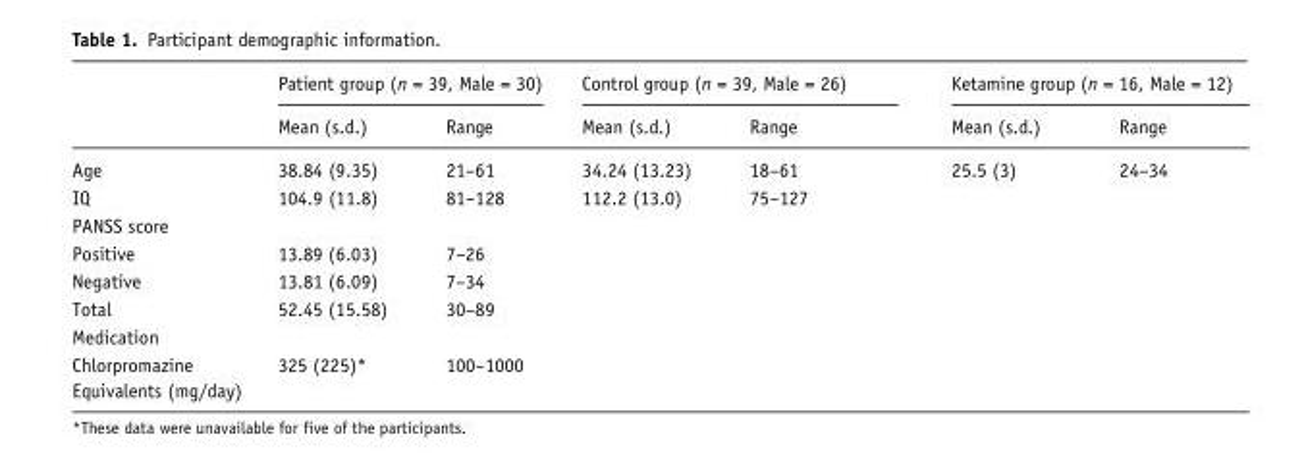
<table><thead><tr><td rowspan="2"></td><td colspan="2">Patient group (n = 39, Male = 30)</td><td colspan="2">Control group (n = 39, Male = 26)</td><td colspan="2">Ketamine group (n = 16, Male = 12)</td></tr><tr><td>Mean (s.d.)</td><td>Range</td><td>Mean (s.d.)</td><td>Range</td><td>Mean (s.d.)</td><td>Range</td></tr></thead><tbody><tr><td>Age</td><td>38.84 (9.35)</td><td>21–61</td><td>34.24 (13.23)</td><td>18–61</td><td>25.5 (3)</td><td>24–34</td></tr><tr><td>IQ</td><td>104.9 (11.8)</td><td>81–128</td><td>112.2 (13.0)</td><td>75–127</td><td></td><td></td></tr><tr><td colspan="7">PANSS score</td></tr><tr><td>Positive</td><td>13.89 (6.03)</td><td>7–26</td><td></td><td></td><td></td><td></td></tr><tr><td>Negative</td><td>13.81 (6.09)</td><td>7–34</td><td></td><td></td><td></td><td></td></tr><tr><td>Total</td><td>52.45 (15.58)</td><td>30–89</td><td></td><td></td><td></td><td></td></tr><tr><td colspan="7">Medication</td></tr><tr><td>Chlorpromazine Equivalents (mg/day)</td><td>325 (225)*</td><td>100–1000</td><td></td><td></td><td></td><td></td></tr></tbody></table>